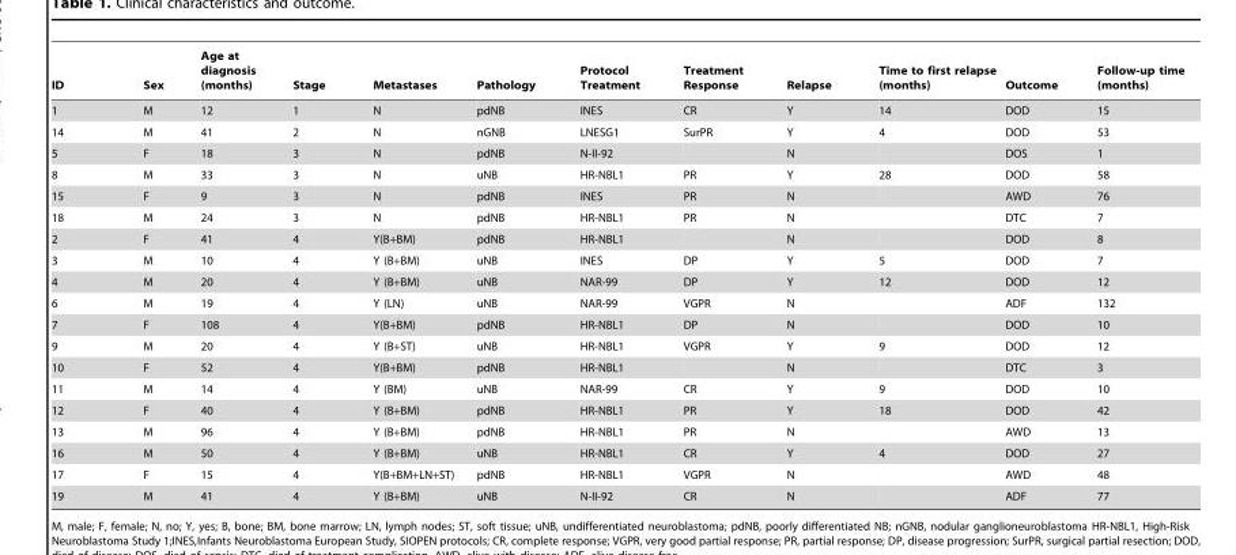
<table><thead><tr><td>ID</td><td>Sex</td><td>Age at diagnosis (months)</td><td>Stage</td><td>Metastases</td><td>Pathology</td><td>Protocol Treatment</td><td>Treatment Response</td><td>Relapse</td><td>Time to first relapse (months)</td><td>Outcome</td><td>Follow-up time (months)</td></tr></thead><tbody><tr><td>1</td><td>M</td><td>12</td><td>1</td><td>N</td><td>pdNB</td><td>INES</td><td>CR</td><td>Y</td><td>14</td><td>DOD</td><td>15</td></tr><tr><td>14</td><td>M</td><td>41</td><td>2</td><td>N</td><td>nGNB</td><td>LNESG1</td><td>SurPR</td><td>Y</td><td>4</td><td>DOD</td><td>53</td></tr><tr><td>5</td><td>F</td><td>18</td><td>3</td><td>N</td><td>pdNB</td><td>N-II-92</td><td></td><td>N</td><td></td><td>DOS</td><td>1</td></tr><tr><td>8</td><td>M</td><td>33</td><td>3</td><td>N</td><td>uNB</td><td>HR-NBL1</td><td>PR</td><td>Y</td><td>28</td><td>DOD</td><td>58</td></tr><tr><td>15</td><td>F</td><td>9</td><td>3</td><td>N</td><td>pdNB</td><td>INES</td><td>PR</td><td>N</td><td></td><td>AWD</td><td>76</td></tr><tr><td>18</td><td>M</td><td>24</td><td>3</td><td>N</td><td>pdNB</td><td>HR-NBL1</td><td>PR</td><td>N</td><td></td><td>DTC</td><td>7</td></tr><tr><td>2</td><td>F</td><td>41</td><td>4</td><td>Y(B+BM)</td><td>pdNB</td><td>HR-NBL1</td><td></td><td>N</td><td></td><td>DOD</td><td>8</td></tr><tr><td>3</td><td>M</td><td>10</td><td>4</td><td>Y (B+BM)</td><td>uNB</td><td>INES</td><td>DP</td><td>Y</td><td>5</td><td>DOD</td><td>7</td></tr><tr><td>4</td><td>M</td><td>20</td><td>4</td><td>Y (B+BM)</td><td>uNB</td><td>NAR-99</td><td>DP</td><td>Y</td><td>12</td><td>DOD</td><td>12</td></tr><tr><td>6</td><td>M</td><td>19</td><td>4</td><td>Y (LN)</td><td>uNB</td><td>NAR-99</td><td>VGPR</td><td>N</td><td></td><td>ADF</td><td>132</td></tr><tr><td>7</td><td>F</td><td>108</td><td>4</td><td>Y(B+BM)</td><td>pdNB</td><td>HR-NBL1</td><td>DP</td><td>N</td><td></td><td>DOD</td><td>10</td></tr><tr><td>9</td><td>M</td><td>20</td><td>4</td><td>Y (B+ST)</td><td>uNB</td><td>HR-NBL1</td><td>VGPR</td><td>Y</td><td>9</td><td>DOD</td><td>12</td></tr><tr><td>10</td><td>F</td><td>52</td><td>4</td><td>Y(B+BM)</td><td>pdNB</td><td>HR-NBL1</td><td></td><td>N</td><td></td><td>DTC</td><td>3</td></tr><tr><td>11</td><td>M</td><td>14</td><td>4</td><td>Y (BM)</td><td>uNB</td><td>NAR-99</td><td>CR</td><td>Y</td><td>9</td><td>DOD</td><td>10</td></tr><tr><td>12</td><td>F</td><td>40</td><td>4</td><td>Y (B+BM)</td><td>pdNB</td><td>HR-NBL1</td><td>PR</td><td>Y</td><td>18</td><td>DOD</td><td>42</td></tr><tr><td>13</td><td>M</td><td>96</td><td>4</td><td>Y (B+BM)</td><td>pdNB</td><td>HR-NBL1</td><td>PR</td><td>N</td><td></td><td>AWD</td><td>13</td></tr><tr><td>16</td><td>M</td><td>50</td><td>4</td><td>Y (B+BM)</td><td>uNB</td><td>HR-NBL1</td><td>CR</td><td>Y</td><td>4</td><td>DOD</td><td>27</td></tr><tr><td>17</td><td>F</td><td>15</td><td>4</td><td>Y(B+BM+LN+ST)</td><td>pdNB</td><td>HR-NBL1</td><td>VGPR</td><td>N</td><td></td><td>AWD</td><td>48</td></tr><tr><td>19</td><td>M</td><td>41</td><td>4</td><td>Y (B+BM)</td><td>uNB</td><td>N-II-92</td><td>CR</td><td>N</td><td></td><td>ADF</td><td>77</td></tr></tbody></table>